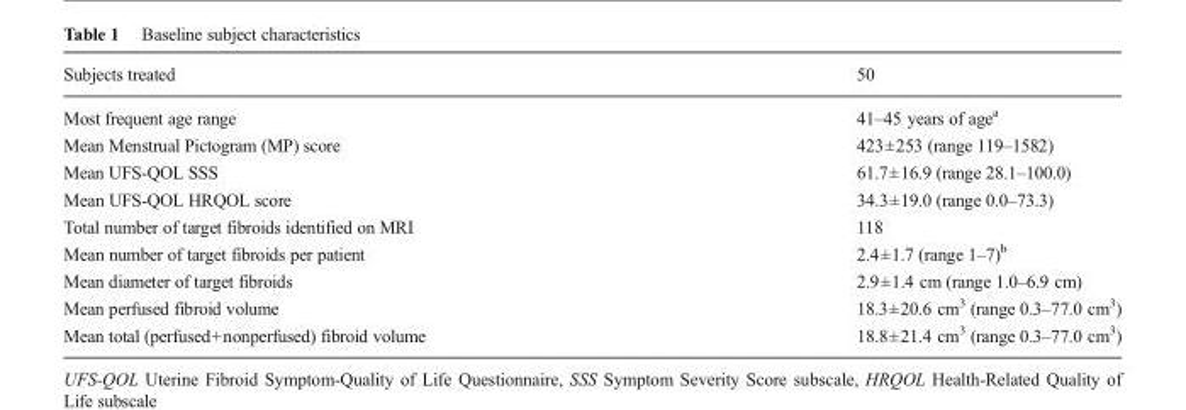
<table><thead><tr><td>Subjects treated</td><td>50</td></tr></thead><tbody><tr><td>Most frequent age range</td><td>41–45 years of age<sup>a</sup></td></tr><tr><td>Mean Menstrual Pictogram (MP) score</td><td>423±253 (range 119–1582)</td></tr><tr><td>Mean UFS-QOL SSS</td><td>61.7±16.9 (range 28.1–100.0)</td></tr><tr><td>Mean UFS-QOL HRQOL score</td><td>34.3±19.0 (range 0.0–73.3)</td></tr><tr><td>Total number of target fibroids identified on MRI</td><td>118</td></tr><tr><td>Mean number of target fibroids per patient</td><td>2.4±1.7 (range 1–7)<sup>b</sup></td></tr><tr><td>Mean diameter of target fibroids</td><td>2.9±1.4 cm (range 1.0–6.9 cm)</td></tr><tr><td>Mean perfused fibroid volume</td><td>18.3±20.6 cm<sup>3</sup> (range 0.3–77.0 cm<sup>3</sup>)</td></tr><tr><td>Mean total (perfused+nonperfused) fibroid volume</td><td>18.8±21.4 cm<sup>3</sup> (range 0.3–77.0 cm<sup>3</sup>)</td></tr></tbody></table>